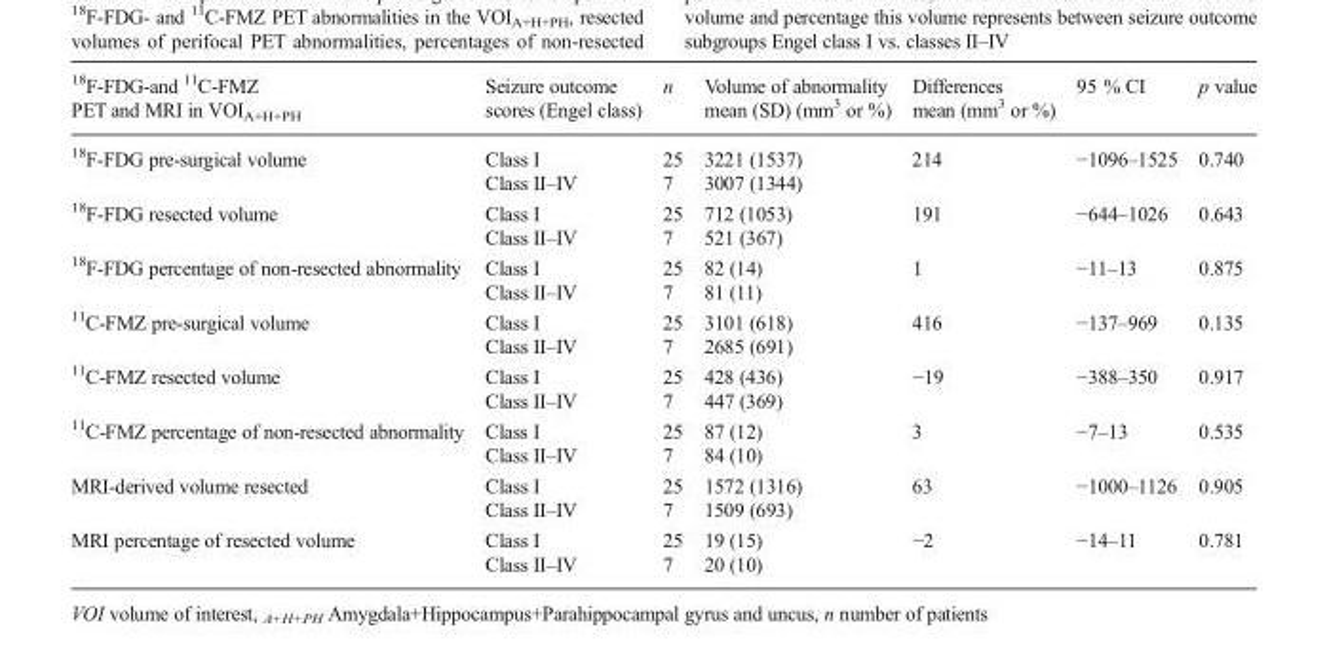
<table><thead><tr><td><sup>18</sup>F-FDG-and <sup>11</sup>C-FMZ PET and MRI in VOI<sub>A+H+PH</sub></td><td>Seizure outcome scores (Engel class)</td><td>n</td><td>Volume of abnormality mean (SD) (mm<sup>3</sup> or %)</td><td>Differences mean (mm<sup>3</sup> or %)</td><td>95 % CI</td><td>p value</td></tr></thead><tbody><tr><td rowspan="2"><sup>18</sup>F-FDG pre-surgical volume</td><td>Class I</td><td>25</td><td>3221 (1537)</td><td rowspan="2">214</td><td rowspan="2">−1096–1525</td><td rowspan="2">0.740</td></tr><tr><td>Class II–IV</td><td>7</td><td>3007 (1344)</td></tr><tr><td rowspan="2"><sup>18</sup>F-FDG resected volume</td><td>Class I</td><td>25</td><td>712 (1053)</td><td rowspan="2">191</td><td rowspan="2">−644–1026</td><td rowspan="2">0.643</td></tr><tr><td>Class II–IV</td><td>7</td><td>521 (367)</td></tr><tr><td rowspan="2"><sup>18</sup>F-FDG percentage of non-resected abnormality</td><td>Class I</td><td>25</td><td>82 (14)</td><td rowspan="2">1</td><td rowspan="2">−11–13</td><td rowspan="2">0.875</td></tr><tr><td>Class II–IV</td><td>7</td><td>81 (11)</td></tr><tr><td rowspan="2"><sup>11</sup>C-FMZ pre-surgical volume</td><td>Class I</td><td>25</td><td>3101 (618)</td><td rowspan="2">416</td><td rowspan="2">−137–969</td><td rowspan="2">0.135</td></tr><tr><td>Class II–IV</td><td>7</td><td>2685 (691)</td></tr><tr><td rowspan="2"><sup>11</sup>C-FMZ resected volume</td><td>Class I</td><td>25</td><td>428 (436)</td><td rowspan="2">−19</td><td rowspan="2">−388–350</td><td rowspan="2">0.917</td></tr><tr><td>Class II–IV</td><td>7</td><td>447 (369)</td></tr><tr><td rowspan="2"><sup>11</sup>C-FMZ percentage of non-resected abnormality</td><td>Class I</td><td>25</td><td>87 (12)</td><td rowspan="2">3</td><td rowspan="2">−7–13</td><td rowspan="2">0.535</td></tr><tr><td>Class II–IV</td><td>7</td><td>84 (10)</td></tr><tr><td rowspan="2">MRI-derived volume resected</td><td>Class I</td><td>25</td><td>1572 (1316)</td><td rowspan="2">63</td><td rowspan="2">−1000–1126</td><td rowspan="2">0.905</td></tr><tr><td>Class II–IV</td><td>7</td><td>1509 (693)</td></tr><tr><td rowspan="2">MRI percentage of resected volume</td><td>Class I</td><td>25</td><td>19 (15)</td><td rowspan="2">−2</td><td rowspan="2">−14–11</td><td rowspan="2">0.781</td></tr><tr><td>Class II–IV</td><td>7</td><td>20 (10)</td></tr></tbody></table>